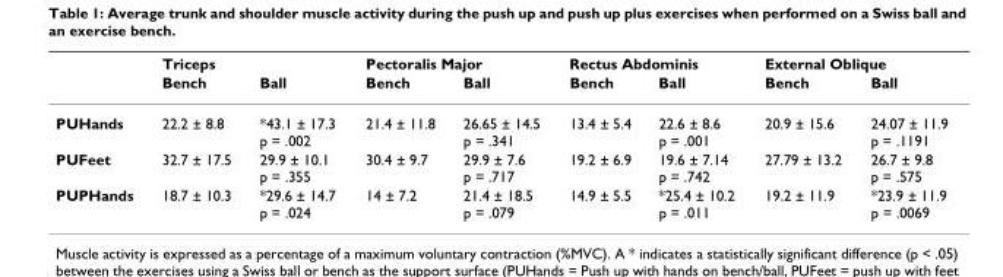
<table><thead><tr><td rowspan="2"></td><td colspan="2">Triceps</td><td colspan="2">Pectoralis Major</td><td colspan="2">Rectus Abdominis</td><td colspan="2">External Oblique</td></tr><tr><td>Bench</td><td>Ball</td><td>Bench</td><td>Ball</td><td>Bench</td><td>Ball</td><td>Bench</td><td>Ball</td></tr></thead><tbody><tr><td>PUHands</td><td>22.2 ± 8.8</td><td>*43.1 ± 17.3 p = .002</td><td>21.4 ± 11.8</td><td>26.65 ± 14.5 p = .341</td><td>13.4 ± 5.4</td><td>22.6 ± 8.6 p = .001</td><td>20.9 ± 15.6</td><td>24.07 ± 11.9 p = .1191</td></tr><tr><td>PUFeet</td><td>32.7 ± 17.5</td><td>29.9 ± 10.1 p = .355</td><td>30.4 ± 9.7</td><td>29.9 ± 7.6 p = .717</td><td>19.2 ± 6.9</td><td>19.6 ± 7.14 p = .742</td><td>27.79 ± 13.2</td><td>26.7 ± 9.8 p = .575</td></tr><tr><td>PUPHands</td><td>18.7 ± 10.3</td><td>*29.6 ± 14.7 p = .024</td><td>14 ± 7.2</td><td>21.4 ± 18.5 p = .079</td><td>14.9 ± 5.5</td><td>*25.4 ± 10.2 p = .011</td><td>19.2 ± 11.9</td><td>*23.9 ± 11.9 p = .0069</td></tr></tbody></table>